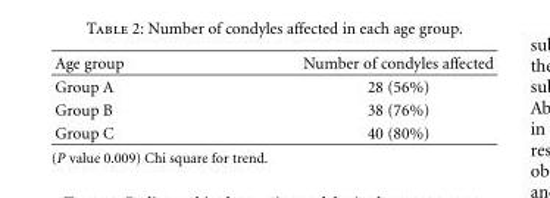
<table><thead><tr><td>Age group</td><td>Number of condyles affected</td></tr></thead><tbody><tr><td>Group A</td><td>28 (56%)</td></tr><tr><td>Group B</td><td>38 (76%)</td></tr><tr><td>Group C</td><td>40 (80%)</td></tr></tbody></table>